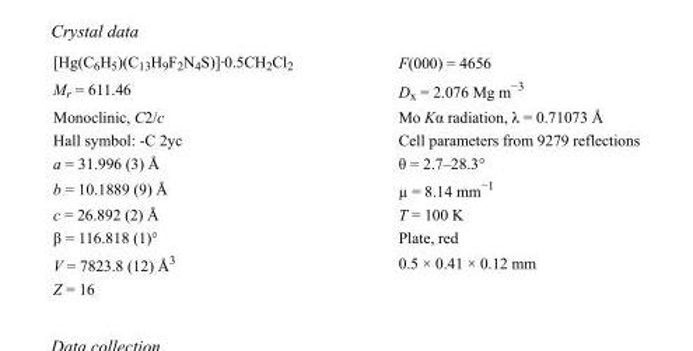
<table><tbody><tr><td>[Hg(C<sub>6</sub>H<sub>5</sub>)(C<sub>13</sub>H<sub>9</sub>F<sub>2</sub>N<sub>4</sub>S)]·0.5CH<sub>2</sub>Cl<sub>2</sub></td><td>F(000) = 4656</td></tr><tr><td>M<sub>r</sub> = 611.46</td><td>D<sub>x</sub> = 2.076 Mg m<sup>−3</sup></td></tr><tr><td>Monoclinic, C2/c</td><td>Mo Kα radiation, λ = 0.71073 Å</td></tr><tr><td>Hall symbol: -C 2yc</td><td>Cell parameters from 9279 reflections</td></tr><tr><td>a = 31.996 (3) Å</td><td>θ = 2.7–28.3°</td></tr><tr><td>b = 10.1889 (9) Å</td><td>µ = 8.14 mm<sup>−1</sup></td></tr><tr><td>c = 26.892 (2) Å</td><td>T = 100 K</td></tr><tr><td>β = 116.818 (1)°</td><td>Plate, red</td></tr><tr><td>V = 7823.8 (12) Å<sup>3</sup></td><td>0.5 × 0.41 × 0.12 mm</td></tr><tr><td>Z = 16</td><td></td></tr></tbody></table>